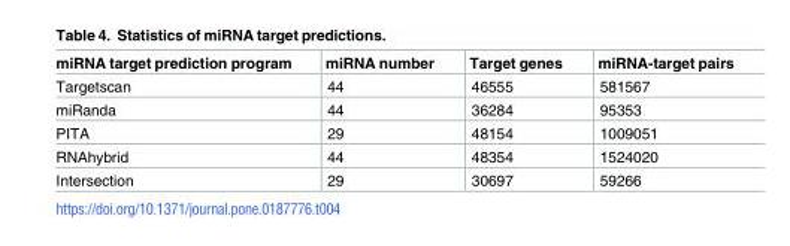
<table><thead><tr><td>miRNA target prediction program</td><td>miRNA number</td><td>Target genes</td><td>miRNA-target pairs</td></tr></thead><tbody><tr><td>Targetscan</td><td>44</td><td>46555</td><td>581567</td></tr><tr><td>miRanda</td><td>44</td><td>36284</td><td>95353</td></tr><tr><td>PITA</td><td>29</td><td>48154</td><td>1009051</td></tr><tr><td>RNAhybrid</td><td>44</td><td>48354</td><td>1524020</td></tr><tr><td>Intersection</td><td>29</td><td>30697</td><td>59266</td></tr></tbody></table>